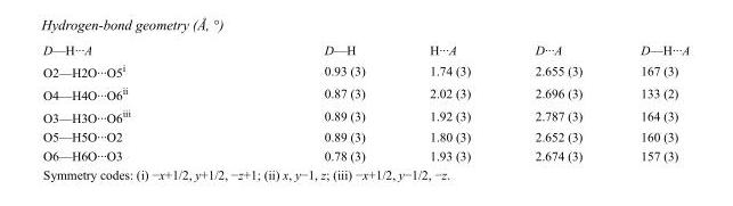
<table><tbody><tr><td>D—H···A</td><td>D—H</td><td>H···A</td><td>D···A</td><td>D—H···A</td></tr><tr><td>O2—H2O···O5<sup>i</sup></td><td>0.93 (3)</td><td>1.74 (3)</td><td>2.655 (3)</td><td>167 (3)</td></tr><tr><td>O4—H4O···O6<sup>ii</sup></td><td>0.87 (3)</td><td>2.02 (3)</td><td>2.696 (3)</td><td>133 (2)</td></tr><tr><td>O3—H3O···O6<sup>iii</sup></td><td>0.89 (3)</td><td>1.92 (3)</td><td>2.787 (3)</td><td>164 (3)</td></tr><tr><td>O5—H5O···O2</td><td>0.89 (3)</td><td>1.80 (3)</td><td>2.652 (3)</td><td>160 (3)</td></tr><tr><td>O6—H6O···O3</td><td>0.78 (3)</td><td>1.93 (3)</td><td>2.674 (3)</td><td>157 (3)</td></tr></tbody></table>